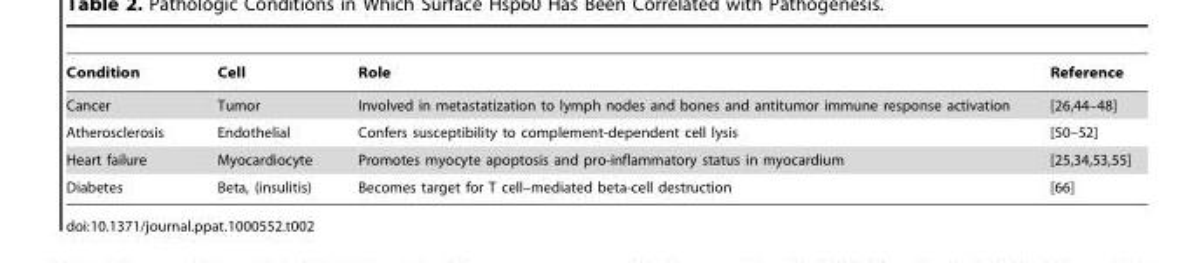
<table><thead><tr><td>Condition</td><td>Cell</td><td>Role</td><td>Reference</td></tr></thead><tbody><tr><td>Cancer</td><td>Tumor</td><td>Involved in metastatization to lymph nodes and bones and antitumor immune response activation</td><td>[26,44–48]</td></tr><tr><td>Atherosclerosis</td><td>Endothelial</td><td>Confers susceptibility to complement-dependent cell lysis</td><td>[50–52]</td></tr><tr><td>Heart failure</td><td>Myocardiocyte</td><td>Promotes myocyte apoptosis and pro-inflammatory status in myocardium</td><td>[25,34,53,55]</td></tr><tr><td>Diabetes</td><td>Beta, (insulitis)</td><td>Becomes target for T cell–mediated beta-cell destruction</td><td>[66]</td></tr></tbody></table>